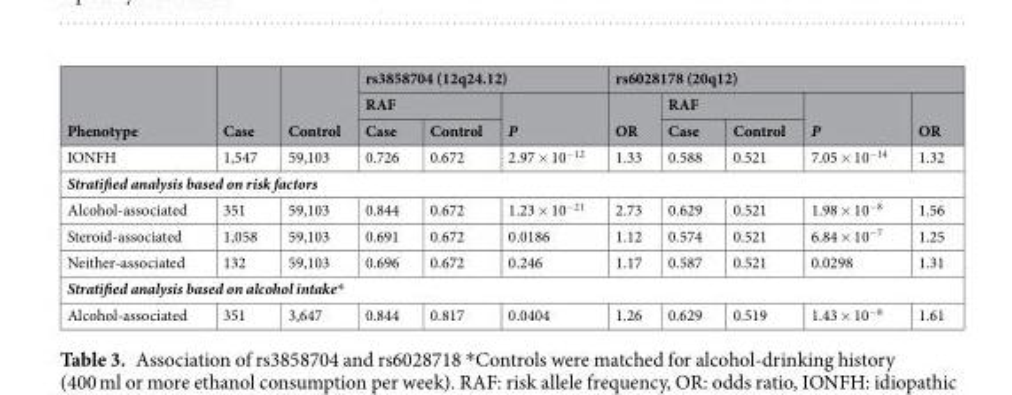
<table><thead><tr><td rowspan="3">Phenotype</td><td rowspan="3">Case</td><td rowspan="3">Control</td><td colspan="3">rs3858704 (12q24.12)</td><td colspan="5">rs6028178 (20q12)</td></tr><tr><td colspan="2">RAF</td><td rowspan="2">P</td><td rowspan="2">OR</td><td colspan="2">RAF</td><td rowspan="2">P</td><td rowspan="2">OR</td></tr><tr><td>Case</td><td>Control</td><td>Case</td><td>Control</td></tr></thead><tbody><tr><td>IONFH</td><td>1,547</td><td>59,103</td><td>0.726</td><td>0.672</td><td>2.97 × 10<sup>−12</sup></td><td>1.33</td><td>0.588</td><td>0.521</td><td>7.05 × 10<sup>−14</sup></td><td>1.32</td></tr><tr><td colspan="11">Stratified analysis based on risk factors</td></tr><tr><td>Alcohol-associated</td><td>351</td><td>59,103</td><td>0.844</td><td>0.672</td><td>1.23 × 10<sup>−21</sup></td><td>2.73</td><td>0.629</td><td>0.521</td><td>1.98 × 10<sup>−8</sup></td><td>1.56</td></tr><tr><td>Steroid-associated</td><td>1,058</td><td>59,103</td><td>0.691</td><td>0.672</td><td>0.0186</td><td>1.12</td><td>0.574</td><td>0.521</td><td>6.84 × 10<sup>−7</sup></td><td>1.25</td></tr><tr><td>Neither-associated</td><td>132</td><td>59,103</td><td>0.696</td><td>0.672</td><td>0.246</td><td>1.17</td><td>0.587</td><td>0.521</td><td>0.0298</td><td>1.31</td></tr><tr><td colspan="11">Stratified analysis based on alcohol intake*</td></tr><tr><td>Alcohol-associated</td><td>351</td><td>3,647</td><td>0.844</td><td>0.817</td><td>0.0404</td><td>1.26</td><td>0.629</td><td>0.519</td><td>1.43 × 10<sup>−8</sup></td><td>1.61</td></tr></tbody></table>